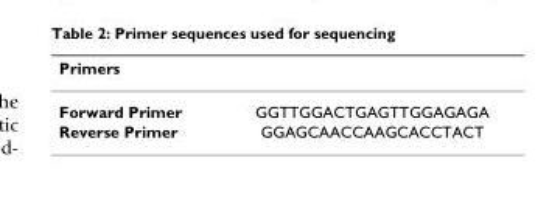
<table><thead><tr><td>Primers</td><td></td></tr></thead><tbody><tr><td>Forward Primer</td><td>GGTTGGACTGAGTTGGAGAGA</td></tr><tr><td>Reverse Primer</td><td>GGAGCAACCAAGCACCTACT</td></tr></tbody></table>